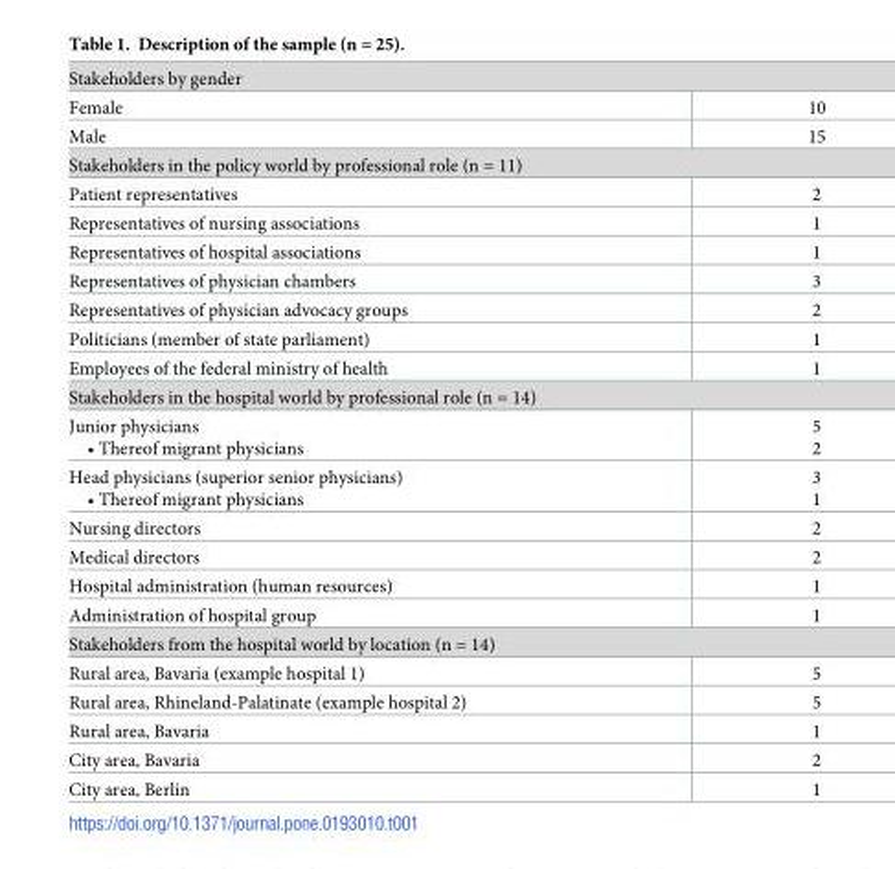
<table><tbody><tr><td colspan="2">Stakeholders by gender</td></tr><tr><td>Female</td><td>10</td></tr><tr><td>Male</td><td>15</td></tr><tr><td colspan="2">Stakeholders in the policy world by professional role (n = 11)</td></tr><tr><td>Patient representatives</td><td>2</td></tr><tr><td>Representatives of nursing associations</td><td>1</td></tr><tr><td>Representatives of hospital associations</td><td>1</td></tr><tr><td>Representatives of physician chambers</td><td>3</td></tr><tr><td>Representatives of physician advocacy groups</td><td>2</td></tr><tr><td>Politicians (member of state parliament)</td><td>1</td></tr><tr><td>Employees of the federal ministry of health</td><td>1</td></tr><tr><td colspan="2">Stakeholders in the hospital world by professional role (n = 14)</td></tr><tr><td>Junior physicians • Thereof migrant physicians</td><td>5 2</td></tr><tr><td>Head physicians (superior senior physicians) • Thereof migrant physicians</td><td>3 1</td></tr><tr><td>Nursing directors</td><td>2</td></tr><tr><td>Medical directors</td><td>2</td></tr><tr><td>Hospital administration (human resources)</td><td>1</td></tr><tr><td>Administration of hospital group</td><td>1</td></tr><tr><td colspan="2">Stakeholders from the hospital world by location (n = 14)</td></tr><tr><td>Rural area, Bavaria (example hospital 1)</td><td>5</td></tr><tr><td>Rural area, Rhineland-Palatinate (example hospital 2)</td><td>5</td></tr><tr><td>Rural area, Bavaria</td><td>1</td></tr><tr><td>City area, Bavaria</td><td>2</td></tr><tr><td>City area, Berlin</td><td>1</td></tr></tbody></table>